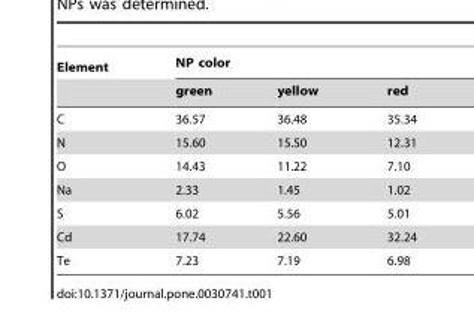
<table><thead><tr><td rowspan="2">Element</td><td colspan="3">NP color</td></tr><tr><td>green</td><td>yellow</td><td>red</td></tr></thead><tbody><tr><td>C</td><td>36.57</td><td>36.48</td><td>35.34</td></tr><tr><td>N</td><td>15.60</td><td>15.50</td><td>12.31</td></tr><tr><td>O</td><td>14.43</td><td>11.22</td><td>7.10</td></tr><tr><td>Na</td><td>2.33</td><td>1.45</td><td>1.02</td></tr><tr><td>S</td><td>6.02</td><td>5.56</td><td>5.01</td></tr><tr><td>Cd</td><td>17.74</td><td>22.60</td><td>32.24</td></tr><tr><td>Te</td><td>7.23</td><td>7.19</td><td>6.98</td></tr></tbody></table>